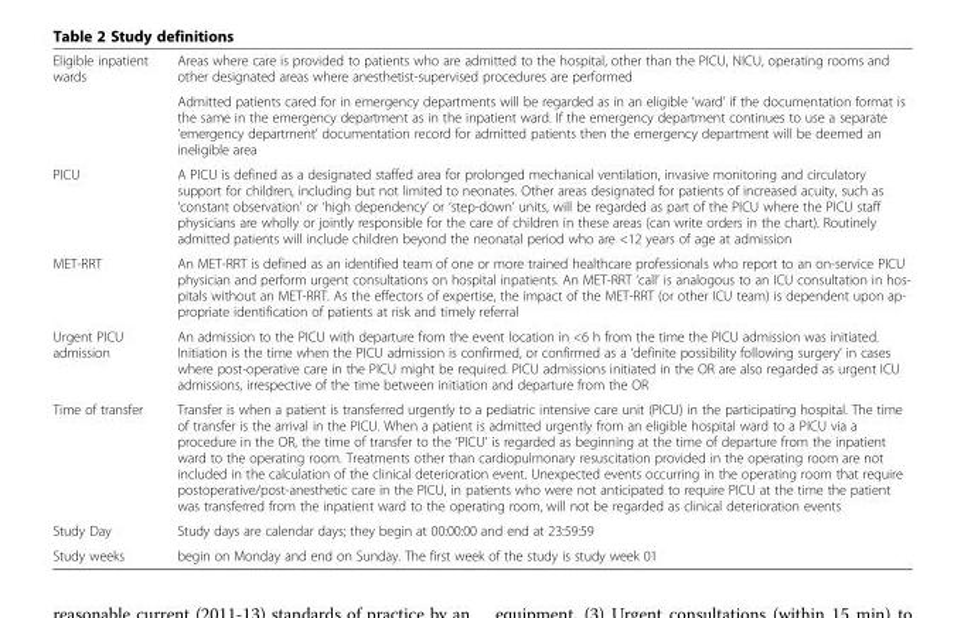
<table><tbody><tr><td rowspan="2">Eligible inpatient wards</td><td>Areas where care is provided to patients who are admitted to the hospital, other than the PICU, NICU, operating rooms and other designated areas where anesthetist-supervised procedures are performed</td></tr><tr><td>Admitted patients cared for in emergency departments will be regarded as in an eligible ‘ward’ if the documentation format is the same in the emergency department as in the inpatient ward. If the emergency department continues to use a separate ‘emergency department’ documentation record for admitted patients then the emergency department will be deemed an ineligible area</td></tr><tr><td>PICU</td><td>A PICU is defined as a designated staffed area for prolonged mechanical ventilation, invasive monitoring and circulatory support for children, including but not limited to neonates. Other areas designated for patients of increased acuity, such as ‘constant observation’ or ‘high dependency’ or ‘step-down’ units, will be regarded as part of the PICU where the PICU staff physicians are wholly or jointly responsible for the care of children in these areas (can write orders in the chart). Routinely admitted patients will include children beyond the neonatal period who are &lt;12 years of age at admission</td></tr><tr><td>MET-RRT</td><td>An MET-RRT is defined as an identified team of one or more trained healthcare professionals who report to an on-service PICU physician and perform urgent consultations on hospital inpatients. An MET-RRT ‘call’ is analogous to an ICU consultation in hos- pitals without an MET-RRT. As the effectors of expertise, the impact of the MET-RRT (or other ICU team) is dependent upon ap- propriate identification of patients at risk and timely referral</td></tr><tr><td>Urgent PICU admission</td><td>An admission to the PICU with departure from the event location in &lt;6 h from the time the PICU admission was initiated. Initiation is the time when the PICU admission is confirmed, or confirmed as a ‘definite possibility following surgery’ in cases where post-operative care in the PICU might be required. PICU admissions initiated in the OR are also regarded as urgent ICU admissions, irrespective of the time between initiation and departure from the OR</td></tr><tr><td>Time of transfer</td><td>Transfer is when a patient is transferred urgently to a pediatric intensive care unit (PICU) in the participating hospital. The time of transfer is the arrival in the PICU. When a patient is admitted urgently from an eligible hospital ward to a PICU via a procedure in the OR, the time of transfer to the ‘PICU’ is regarded as beginning at the time of departure from the inpatient ward to the operating room. Treatments other than cardiopulmonary resuscitation provided in the operating room are not included in the calculation of the clinical deterioration event. Unexpected events occurring in the operating room that require postoperative/post-anesthetic care in the PICU, in patients who were not anticipated to require PICU at the time the patient was transferred from the inpatient ward to the operating room, will not be regarded as clinical deterioration events</td></tr><tr><td>Study Day</td><td>Study days are calendar days; they begin at 00:00:00 and end at 23:59:59</td></tr><tr><td>Study weeks</td><td>begin on Monday and end on Sunday. The first week of the study is study week 01</td></tr></tbody></table>